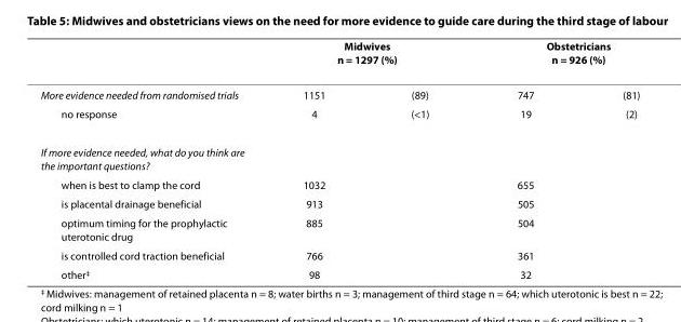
<table><thead><tr><td rowspan="2">More evidence needed from randomised trials</td><td colspan="2">Midwives n = 1297 (%)</td><td colspan="2">Obstetricians n = 926 (%)</td></tr><tr><td>1151</td><td>(89)</td><td>747</td><td>(81)</td></tr></thead><tbody><tr><td>no response</td><td>4</td><td>(&lt;1)</td><td>19</td><td>(2)</td></tr><tr><td colspan="5">If more evidence needed, what do you think are the important questions?</td></tr><tr><td>when is best to clamp the cord</td><td>1032</td><td></td><td>655</td><td></td></tr><tr><td>is placental drainage beneficial</td><td>913</td><td></td><td>505</td><td></td></tr><tr><td>optimum timing for the prophylactic uterotonic drug</td><td>885</td><td></td><td>504</td><td></td></tr><tr><td>is controlled cord traction beneficial</td><td>766</td><td></td><td>361</td><td></td></tr><tr><td>other<sup>‡</sup></td><td>98</td><td></td><td>32</td><td></td></tr></tbody></table>